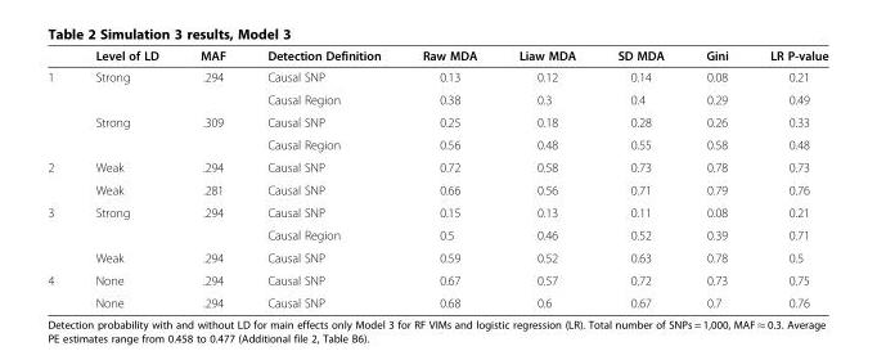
<table><thead><tr><td></td><td>Level of LD</td><td>MAF</td><td>Detection Definition</td><td>Raw MDA</td><td>Liaw MDA</td><td>SD MDA</td><td>Gini</td><td>LR P-value</td></tr></thead><tbody><tr><td rowspan="4">1</td><td>Strong</td><td>.294</td><td>Causal SNP</td><td>0.13</td><td>0.12</td><td>0.14</td><td>0.08</td><td>0.21</td></tr><tr><td></td><td></td><td>Causal Region</td><td>0.38</td><td>0.3</td><td>0.4</td><td>0.29</td><td>0.49</td></tr><tr><td>Strong</td><td>.309</td><td>Causal SNP</td><td>0.25</td><td>0.18</td><td>0.28</td><td>0.26</td><td>0.33</td></tr><tr><td></td><td></td><td>Causal Region</td><td>0.56</td><td>0.48</td><td>0.55</td><td>0.58</td><td>0.48</td></tr><tr><td rowspan="2">2</td><td>Weak</td><td>.294</td><td>Causal SNP</td><td>0.72</td><td>0.58</td><td>0.73</td><td>0.78</td><td>0.73</td></tr><tr><td>Weak</td><td>.281</td><td>Causal SNP</td><td>0.66</td><td>0.56</td><td>0.71</td><td>0.79</td><td>0.76</td></tr><tr><td rowspan="3">3</td><td>Strong</td><td>.294</td><td>Causal SNP</td><td>0.15</td><td>0.13</td><td>0.11</td><td>0.08</td><td>0.21</td></tr><tr><td></td><td></td><td>Causal Region</td><td>0.5</td><td>0.46</td><td>0.52</td><td>0.39</td><td>0.71</td></tr><tr><td>Weak</td><td>.294</td><td>Causal SNP</td><td>0.59</td><td>0.52</td><td>0.63</td><td>0.78</td><td>0.5</td></tr><tr><td rowspan="2">4</td><td>None</td><td>.294</td><td>Causal SNP</td><td>0.67</td><td>0.57</td><td>0.72</td><td>0.73</td><td>0.75</td></tr><tr><td>None</td><td>.294</td><td>Causal SNP</td><td>0.68</td><td>0.6</td><td>0.67</td><td>0.7</td><td>0.76</td></tr></tbody></table>